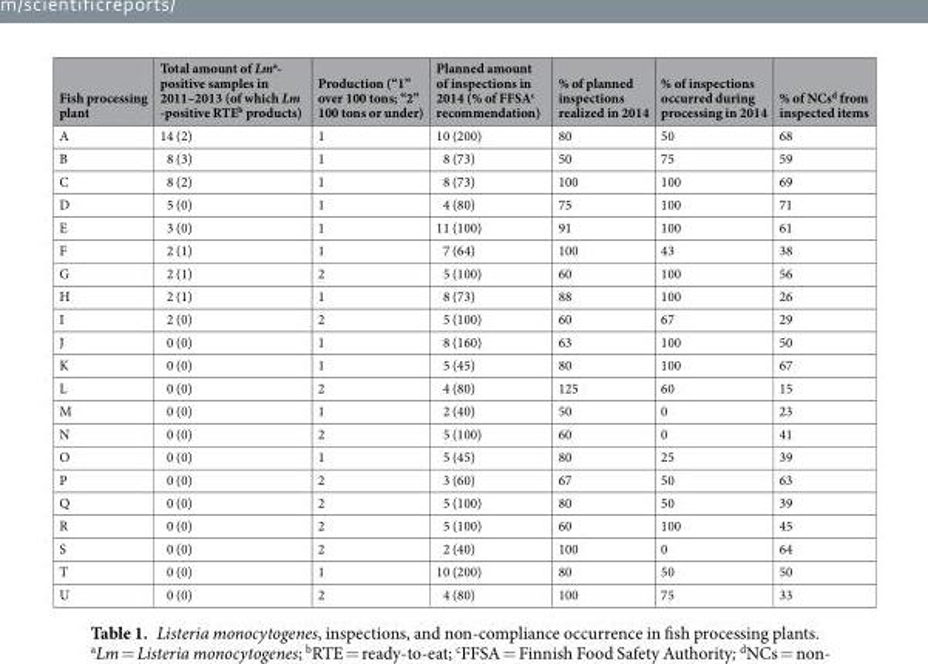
<table><thead><tr><td>Fish processing plant</td><td>Total amount of Lm<sup>a</sup>- positive samples in 2011–2013 (of which Lm -positive RTE<sup>b</sup> products)</td><td>Production (“1” over 100 tons; “2” 100 tons or under)</td><td>Planned amount of inspections in 2014 (% of FFSA<sup>c</sup> recommendation)</td><td>% of planned inspections realized in 2014</td><td>% of inspections occurred during processing in 2014</td><td>% of NCs<sup>d</sup> from inspected items</td></tr></thead><tbody><tr><td>A</td><td>14 (2)</td><td>1</td><td>10 (200)</td><td>80</td><td>50</td><td>68</td></tr><tr><td>B</td><td>8 (3)</td><td>1</td><td>8 (73)</td><td>50</td><td>75</td><td>59</td></tr><tr><td>C</td><td>8 (2)</td><td>1</td><td>8 (73)</td><td>100</td><td>100</td><td>69</td></tr><tr><td>D</td><td>5 (0)</td><td>1</td><td>4 (80)</td><td>75</td><td>100</td><td>71</td></tr><tr><td>E</td><td>3 (0)</td><td>1</td><td>11 (100)</td><td>91</td><td>100</td><td>61</td></tr><tr><td>F</td><td>2 (1)</td><td>1</td><td>7 (64)</td><td>100</td><td>43</td><td>38</td></tr><tr><td>G</td><td>2 (1)</td><td>2</td><td>5 (100)</td><td>60</td><td>100</td><td>56</td></tr><tr><td>H</td><td>2 (1)</td><td>1</td><td>8 (73)</td><td>88</td><td>100</td><td>26</td></tr><tr><td>I</td><td>2 (0)</td><td>2</td><td>5 (100)</td><td>60</td><td>67</td><td>29</td></tr><tr><td>J</td><td>0 (0)</td><td>1</td><td>8 (160)</td><td>63</td><td>100</td><td>50</td></tr><tr><td>K</td><td>0 (0)</td><td>1</td><td>5 (45)</td><td>80</td><td>100</td><td>67</td></tr><tr><td>L</td><td>0 (0)</td><td>2</td><td>4 (80)</td><td>125</td><td>60</td><td>15</td></tr><tr><td>M</td><td>0 (0)</td><td>1</td><td>2 (40)</td><td>50</td><td>0</td><td>23</td></tr><tr><td>N</td><td>0 (0)</td><td>2</td><td>5 (100)</td><td>60</td><td>0</td><td>41</td></tr><tr><td>O</td><td>0 (0)</td><td>1</td><td>5 (45)</td><td>80</td><td>25</td><td>39</td></tr><tr><td>P</td><td>0 (0)</td><td>2</td><td>3 (60)</td><td>67</td><td>50</td><td>63</td></tr><tr><td>Q</td><td>0 (0)</td><td>2</td><td>5 (100)</td><td>80</td><td>50</td><td>39</td></tr><tr><td>R</td><td>0 (0)</td><td>2</td><td>5 (100)</td><td>60</td><td>100</td><td>45</td></tr><tr><td>S</td><td>0 (0)</td><td>2</td><td>2 (40)</td><td>100</td><td>0</td><td>64</td></tr><tr><td>T</td><td>0 (0)</td><td>1</td><td>10 (200)</td><td>80</td><td>50</td><td>50</td></tr><tr><td>U</td><td>0 (0)</td><td>2</td><td>4 (80)</td><td>100</td><td>75</td><td>33</td></tr></tbody></table>